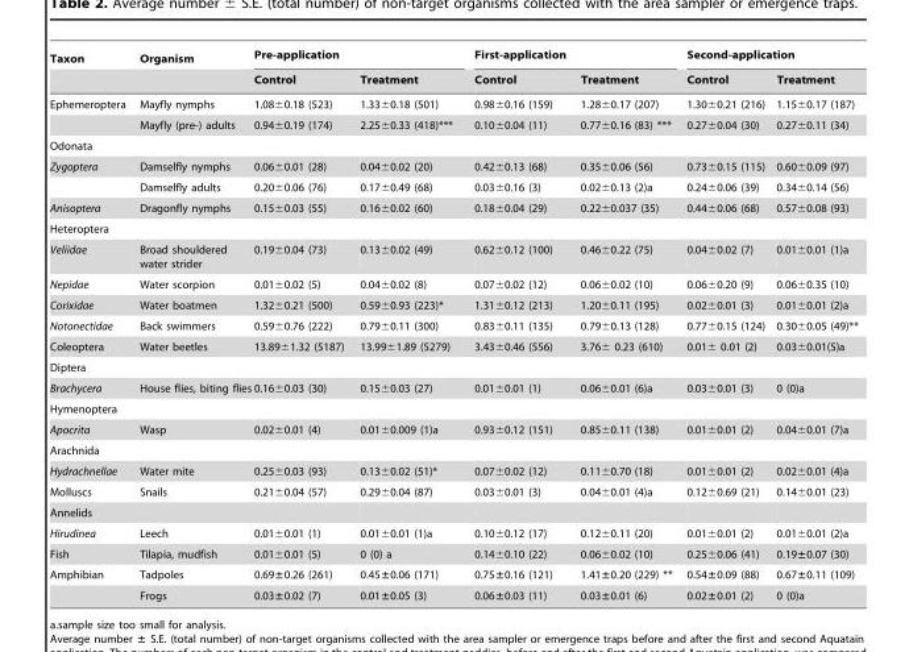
<table><thead><tr><td rowspan="2">Taxon</td><td rowspan="2">Organism</td><td colspan="2">Pre-application</td><td colspan="2">First-application</td><td colspan="2">Second-application</td></tr><tr><td>Control</td><td>Treatment</td><td>Control</td><td>Treatment</td><td>Control</td><td>Treatment</td></tr></thead><tbody><tr><td rowspan="2">Ephemeroptera</td><td>Mayfly nymphs</td><td>1.08±0.18 (523)</td><td>1.33±0.18 (501)</td><td>0.98±0.16 (159)</td><td>1.28±0.17 (207)</td><td>1.30±0.21 (216)</td><td>1.15±0.17 (187)</td></tr><tr><td>Mayfly (pre-) adults</td><td>0.94±0.19 (174)</td><td>2.25±0.33 (418)***</td><td>0.10±0.04 (11)</td><td>0.77±0.16 (83) ***</td><td>0.27±0.04 (30)</td><td>0.27±0.11 (34)</td></tr><tr><td colspan="8">Odonata</td></tr><tr><td rowspan="2">Zygoptera</td><td>Damselfly nymphs</td><td>0.06±0.01 (28)</td><td>0.04±0.02 (20)</td><td>0.42±0.13 (68)</td><td>0.35±0.06 (56)</td><td>0.73±0.15 (115)</td><td>0.60±0.09 (97)</td></tr><tr><td>Damselfly adults</td><td>0.20±0.06 (76)</td><td>0.17±0.49 (68)</td><td>0.03±0.16 (3)</td><td>0.02±0.13 (2)a</td><td>0.24±0.06 (39)</td><td>0.34±0.14 (56)</td></tr><tr><td>Anisoptera</td><td>Dragonfly nymphs</td><td>0.15±0.03 (55)</td><td>0.16±0.02 (60)</td><td>0.18±0.04 (29)</td><td>0.22±0.037 (35)</td><td>0.44±0.06 (68)</td><td>0.57±0.08 (93)</td></tr><tr><td colspan="8">Heteroptera</td></tr><tr><td>Veliidae</td><td>Broad shouldered water strider</td><td>0.19±0.04 (73)</td><td>0.13±0.02 (49)</td><td>0.62±0.12 (100)</td><td>0.46±0.22 (75)</td><td>0.04±0.02 (7)</td><td>0.01±0.01 (1)a</td></tr><tr><td>Nepidae</td><td>Water scorpion</td><td>0.01±0.02 (5)</td><td>0.04±0.02 (8)</td><td>0.07±0.02 (12)</td><td>0.06±0.02 (10)</td><td>0.06±0.20 (9)</td><td>0.06±0.35 (10)</td></tr><tr><td>Corixidae</td><td>Water boatmen</td><td>1.32±0.21 (500)</td><td>0.59±0.93 (223)*</td><td>1.31±0.12 (213)</td><td>1.20±0.11 (195)</td><td>0.02±0.01 (3)</td><td>0.01±0.01 (2)a</td></tr><tr><td>Notonectidae</td><td>Back swimmers</td><td>0.59±0.76 (222)</td><td>0.79±0.11 (300)</td><td>0.83±0.11 (135)</td><td>0.79±0.13 (128)</td><td>0.77±0.15 (124)</td><td>0.30±0.05 (49)**</td></tr><tr><td>Coleoptera</td><td>Water beetles</td><td>13.89±1.32 (5187)</td><td>13.99±1.89 (5279)</td><td>3.43±0.46 (556)</td><td>3.76± 0.23 (610)</td><td>0.01± 0.01 (2)</td><td>0.03±0.01(5)a</td></tr><tr><td colspan="8">Diptera</td></tr><tr><td>Brachycera</td><td>House flies, biting flies</td><td>0.16±0.03 (30)</td><td>0.15±0.03 (27)</td><td>0.01±0.01 (1)</td><td>0.06±0.01 (6)a</td><td>0.03±0.01 (3)</td><td>0 (0)a</td></tr><tr><td colspan="8">Hymenoptera</td></tr><tr><td>Apocrita</td><td>Wasp</td><td>0.02±0.01 (4)</td><td>0.01±0.009 (1)a</td><td>0.93±0.12 (151)</td><td>0.85±0.11 (138)</td><td>0.01±0.01 (2)</td><td>0.04±0.01 (7)a</td></tr><tr><td colspan="8">Arachnida</td></tr><tr><td>Hydrachnellae</td><td>Water mite</td><td>0.25±0.03 (93)</td><td>0.13±0.02 (51)*</td><td>0.07±0.02 (12)</td><td>0.11±0.70 (18)</td><td>0.01±0.01 (2)</td><td>0.02±0.01 (4)a</td></tr><tr><td>Molluscs</td><td>Snails</td><td>0.21±0.04 (57)</td><td>0.29±0.04 (87)</td><td>0.03±0.01 (3)</td><td>0.04±0.01 (4)a</td><td>0.12±0.69 (21)</td><td>0.14±0.01 (23)</td></tr><tr><td colspan="8">Annelids</td></tr><tr><td>Hirudinea</td><td>Leech</td><td>0.01±0.01 (1)</td><td>0.01±0.01 (1)a</td><td>0.10±0.12 (17)</td><td>0.12±0.11 (20)</td><td>0.01±0.01 (2)</td><td>0.01±0.01 (2)a</td></tr><tr><td>Fish</td><td>Tilapia, mudfish</td><td>0.01±0.01 (5)</td><td>0 (0) a</td><td>0.14±0.10 (22)</td><td>0.06±0.02 (10)</td><td>0.25±0.06 (41)</td><td>0.19±0.07 (30)</td></tr><tr><td rowspan="2">Amphibian</td><td>Tadpoles</td><td>0.69±0.26 (261)</td><td>0.45±0.06 (171)</td><td>0.75±0.16 (121)</td><td>1.41±0.20 (229) **</td><td>0.54±0.09 (88)</td><td>0.67±0.11 (109)</td></tr><tr><td>Frogs</td><td>0.03±0.02 (7)</td><td>0.01±0.05 (3)</td><td>0.06±0.03 (11)</td><td>0.03±0.01 (6)</td><td>0.02±0.01 (2)</td><td>0 (0)a</td></tr></tbody></table>